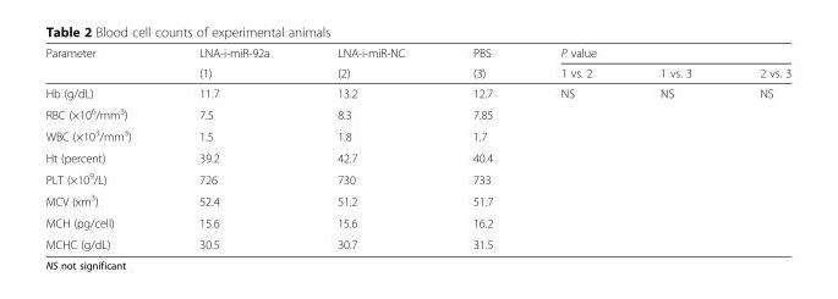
<table><thead><tr><td rowspan="2">Parameter</td><td rowspan="2">LNA-i-miR-92a (1)</td><td rowspan="2">LNA-i-miR-NC (2)</td><td rowspan="2">PBS (3)</td><td colspan="3">P value</td></tr><tr><td>1 vs. 2</td><td>1 vs. 3</td><td>2 vs. 3</td></tr></thead><tbody><tr><td>Hb (g/dL)</td><td>11.7</td><td>13.2</td><td>12.7</td><td rowspan="8">NS</td><td rowspan="8">NS</td><td rowspan="8">NS</td></tr><tr><td>RBC (×10<sup>6</sup>/mm<sup>3</sup>)</td><td>7.5</td><td>8.3</td><td>7.85</td></tr><tr><td>WBC (×10<sup>3</sup>/mm<sup>3</sup>)</td><td>1.5</td><td>1.8</td><td>1.7</td></tr><tr><td>Ht (percent)</td><td>39.2</td><td>42.7</td><td>40.4</td></tr><tr><td>PLT (×10<sup>9</sup>/L)</td><td>726</td><td>730</td><td>733</td></tr><tr><td>MCV (xm<sup>3</sup>)</td><td>52.4</td><td>51.2</td><td>51.7</td></tr><tr><td>MCH (pg/cell)</td><td>15.6</td><td>15.6</td><td>16.2</td></tr><tr><td>MCHC (g/dL)</td><td>30.5</td><td>30.7</td><td>31.5</td></tr></tbody></table>